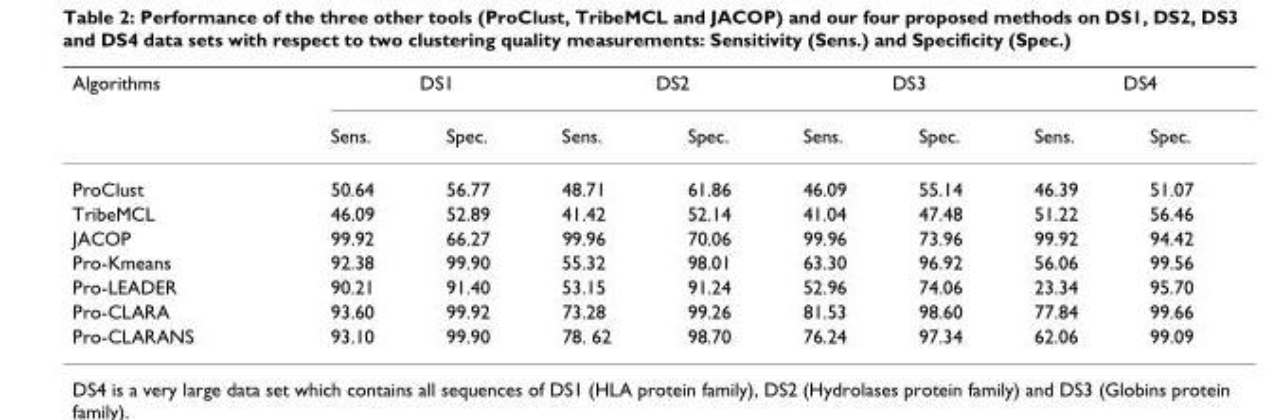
<table><thead><tr><td rowspan="2">Algorithms</td><td colspan="2">DS1</td><td colspan="2">DS2</td><td colspan="2">DS3</td><td colspan="2">DS4</td></tr><tr><td>Sens.</td><td>Spec.</td><td>Sens.</td><td>Spec.</td><td>Sens.</td><td>Spec.</td><td>Sens.</td><td>Spec.</td></tr></thead><tbody><tr><td>ProClust</td><td>50.64</td><td>56.77</td><td>48.71</td><td>61.86</td><td>46.09</td><td>55.14</td><td>46.39</td><td>51.07</td></tr><tr><td>TribeMCL</td><td>46.09</td><td>52.89</td><td>41.42</td><td>52.14</td><td>41.04</td><td>47.48</td><td>51.22</td><td>56.46</td></tr><tr><td>JACOP</td><td>99.92</td><td>66.27</td><td>99.96</td><td>70.06</td><td>99.96</td><td>73.96</td><td>99.92</td><td>94.42</td></tr><tr><td>Pro-Kmeans</td><td>92.38</td><td>99.90</td><td>55.32</td><td>98.01</td><td>63.30</td><td>96.92</td><td>56.06</td><td>99.56</td></tr><tr><td>Pro-LEADER</td><td>90.21</td><td>91.40</td><td>53.15</td><td>91.24</td><td>52.96</td><td>74.06</td><td>23.34</td><td>95.70</td></tr><tr><td>Pro-CLARA</td><td>93.60</td><td>99.92</td><td>73.28</td><td>99.26</td><td>81.53</td><td>98.60</td><td>77.84</td><td>99.66</td></tr><tr><td>Pro-CLARANS</td><td>93.10</td><td>99.90</td><td>78. 62</td><td>98.70</td><td>76.24</td><td>97.34</td><td>62.06</td><td>99.09</td></tr></tbody></table>